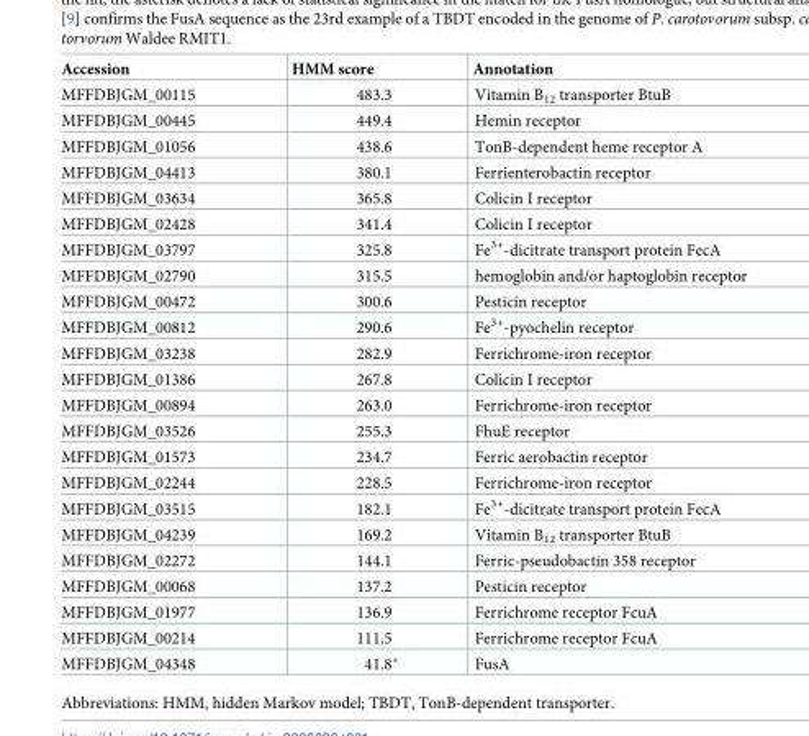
<table><thead><tr><td>Accession</td><td>HMM score</td><td>Annotation</td></tr></thead><tbody><tr><td>MFFDBJGM_00115</td><td>483.3</td><td>Vitamin B<sub>12</sub> transporter BtuB</td></tr><tr><td>MFFDBJGM_00445</td><td>449.4</td><td>Hemin receptor</td></tr><tr><td>MFFDBJGM_01056</td><td>438.6</td><td>TonB-dependent heme receptor A</td></tr><tr><td>MFFDBJGM_04413</td><td>380.1</td><td>Ferrienterobactin receptor</td></tr><tr><td>MFFDBJGM_03634</td><td>365.8</td><td>Colicin I receptor</td></tr><tr><td>MFFDBJGM_02428</td><td>341.4</td><td>Colicin I receptor</td></tr><tr><td>MFFDBJGM_03797</td><td>325.8</td><td>Fe<sup>3+</sup>-dicitrate transport protein FecA</td></tr><tr><td>MFFDBJGM_02790</td><td>315.5</td><td>hemoglobin and/or haptoglobin receptor</td></tr><tr><td>MFFDBJGM_00472</td><td>300.6</td><td>Pesticin receptor</td></tr><tr><td>MFFDBJGM_00812</td><td>290.6</td><td>Fe<sup>3+</sup>-pyochelin receptor</td></tr><tr><td>MFFDBJGM_03238</td><td>282.9</td><td>Ferrichrome-iron receptor</td></tr><tr><td>MFFDBJGM_01386</td><td>267.8</td><td>Colicin I receptor</td></tr><tr><td>MFFDBJGM_00894</td><td>263.0</td><td>Ferrichrome-iron receptor</td></tr><tr><td>MFFDBJGM_03526</td><td>255.3</td><td>FhuE receptor</td></tr><tr><td>MFFDBJGM_01573</td><td>234.7</td><td>Ferric aerobactin receptor</td></tr><tr><td>MFFDBJGM_02244</td><td>228.5</td><td>Ferrichrome-iron receptor</td></tr><tr><td>MFFDBJGM_03515</td><td>182.1</td><td>Fe<sup>3+</sup>-dicitrate transport protein FecA</td></tr><tr><td>MFFDBJGM_04239</td><td>169.2</td><td>Vitamin B<sub>12</sub> transporter BtuB</td></tr><tr><td>MFFDBJGM_02272</td><td>144.1</td><td>Ferric-pseudobactin 358 receptor</td></tr><tr><td>MFFDBJGM_00068</td><td>137.2</td><td>Pesticin receptor</td></tr><tr><td>MFFDBJGM_01977</td><td>136.9</td><td>Ferrichrome receptor FcuA</td></tr><tr><td>MFFDBJGM_00214</td><td>111.5</td><td>Ferrichrome receptor FcuA</td></tr><tr><td>MFFDBJGM_04348</td><td>41.8*</td><td>FusA</td></tr></tbody></table>